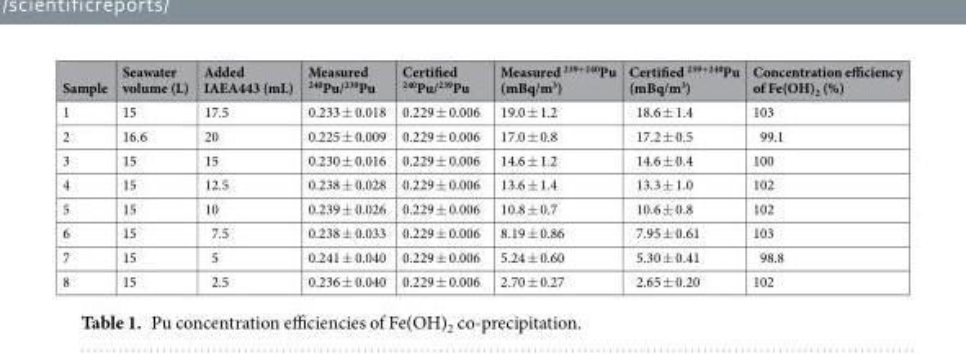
<table><thead><tr><td>Sample</td><td>Seawater volume (L)</td><td>Added IAEA443 (mL)</td><td>Measured <sup>240</sup>Pu/<sup>239</sup>Pu</td><td>Certified <sup>240</sup>Pu/<sup>239</sup>Pu</td><td>Measured <sup>239+240</sup>Pu (mBq/m<sup>3</sup>)</td><td>Certified <sup>239+240</sup>Pu (mBq/m<sup>3</sup>)</td><td>Concentration efficiency of Fe(OH)<sub>2</sub> (%)</td></tr></thead><tbody><tr><td>1</td><td>15</td><td>17.5</td><td>0.233 ± 0.018</td><td>0.229 ± 0.006</td><td>19.0 ± 1.2</td><td>18.6 ± 1.4</td><td>103</td></tr><tr><td>2</td><td>16.6</td><td>20</td><td>0.225 ± 0.009</td><td>0.229 ± 0.006</td><td>17.0 ± 0.8</td><td>17.2 ± 0.5</td><td>99.1</td></tr><tr><td>3</td><td>15</td><td>15</td><td>0.230 ± 0.016</td><td>0.229 ± 0.006</td><td>14.6 ± 1.2</td><td>14.6 ± 0.4</td><td>100</td></tr><tr><td>4</td><td>15</td><td>12.5</td><td>0.238 ± 0.028</td><td>0.229 ± 0.006</td><td>13.6 ± 1.4</td><td>13.3 ± 1.0</td><td>102</td></tr><tr><td>5</td><td>15</td><td>10</td><td>0.239 ± 0.026</td><td>0.229 ± 0.006</td><td>10.8 ± 0.7</td><td>10.6 ± 0.8</td><td>102</td></tr><tr><td>6</td><td>15</td><td>7.5</td><td>0.238 ± 0.033</td><td>0.229 ± 0.006</td><td>8.19 ± 0.86</td><td>7.95 ± 0.61</td><td>103</td></tr><tr><td>7</td><td>15</td><td>5</td><td>0.241 ± 0.040</td><td>0.229 ± 0.006</td><td>5.24 ± 0.60</td><td>5.30 ± 0.41</td><td>98.8</td></tr><tr><td>8</td><td>15</td><td>2.5</td><td>0.236 ± 0.040</td><td>0.229 ± 0.006</td><td>2.70 ± 0.27</td><td>2.65 ± 0.20</td><td>102</td></tr></tbody></table>